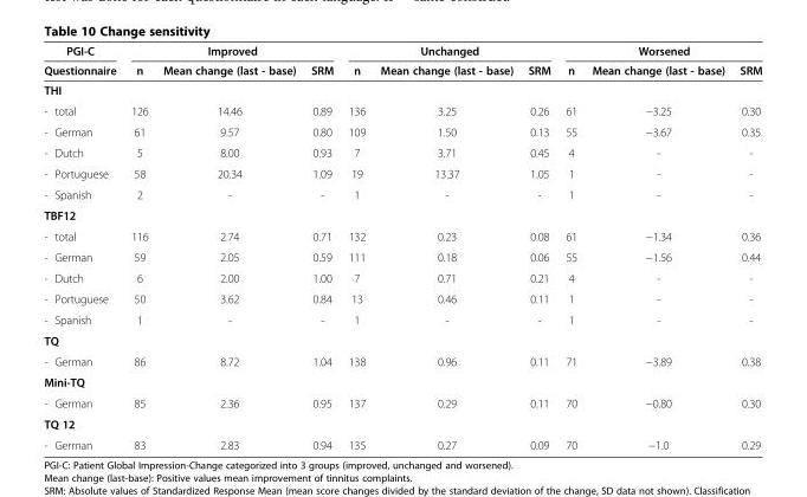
<table><thead><tr><td rowspan="2">PGI-C Questionnaire</td><td colspan="3">Improved</td><td colspan="3">Unchanged</td><td colspan="3">Worsened</td></tr><tr><td>n</td><td>Mean change (last - base)</td><td>SRM</td><td>n</td><td>Mean change (last - base)</td><td>SRM</td><td>n</td><td>Mean change (last - base)</td><td>SRM</td></tr></thead><tbody><tr><td colspan="10">THI</td></tr><tr><td>- total</td><td>126</td><td>14.46</td><td>0.89</td><td>136</td><td>3.25</td><td>0.26</td><td>61</td><td>−3.25</td><td>0.30</td></tr><tr><td>- German</td><td>61</td><td>9.57</td><td>0.80</td><td>109</td><td>1.50</td><td>0.13</td><td>55</td><td>−3.67</td><td>0.35</td></tr><tr><td>- Dutch</td><td>5</td><td>8.00</td><td>0.93</td><td>7</td><td>3.71</td><td>0.45</td><td>4</td><td>-</td><td>-</td></tr><tr><td>- Portuguese</td><td>58</td><td>20.34</td><td>1.09</td><td>19</td><td>13.37</td><td>1.05</td><td>1</td><td>-</td><td>-</td></tr><tr><td>- Spanish</td><td>2</td><td>-</td><td>-</td><td>1</td><td>-</td><td>-</td><td>1</td><td>-</td><td>-</td></tr><tr><td colspan="10">TBF12</td></tr><tr><td>- total</td><td>116</td><td>2.74</td><td>0.71</td><td>132</td><td>0.23</td><td>0.08</td><td>61</td><td>−1.34</td><td>0.36</td></tr><tr><td>- German</td><td>59</td><td>2.05</td><td>0.59</td><td>111</td><td>0.18</td><td>0.06</td><td>55</td><td>−1.56</td><td>0.44</td></tr><tr><td>- Dutch</td><td>6</td><td>2.00</td><td>1.00</td><td>7</td><td>0.71</td><td>0.21</td><td>4</td><td>-</td><td>-</td></tr><tr><td>- Portuguese</td><td>50</td><td>3.62</td><td>0.84</td><td>13</td><td>0.46</td><td>0.11</td><td>1</td><td>-</td><td>-</td></tr><tr><td>- Spanish</td><td>1</td><td>-</td><td>-</td><td>1</td><td>-</td><td>-</td><td>1</td><td>-</td><td>-</td></tr><tr><td colspan="10">TQ</td></tr><tr><td>- German</td><td>86</td><td>8.72</td><td>1.04</td><td>138</td><td>0.96</td><td>0.11</td><td>71</td><td>−3.89</td><td>0.38</td></tr><tr><td colspan="10">Mini-TQ</td></tr><tr><td>- German</td><td>85</td><td>2.36</td><td>0.95</td><td>137</td><td>0.29</td><td>0.11</td><td>70</td><td>−0.80</td><td>0.30</td></tr><tr><td colspan="10">TQ 12</td></tr><tr><td>- German</td><td>83</td><td>2.83</td><td>0.94</td><td>135</td><td>0.27</td><td>0.09</td><td>70</td><td>−1.0</td><td>0.29</td></tr></tbody></table>